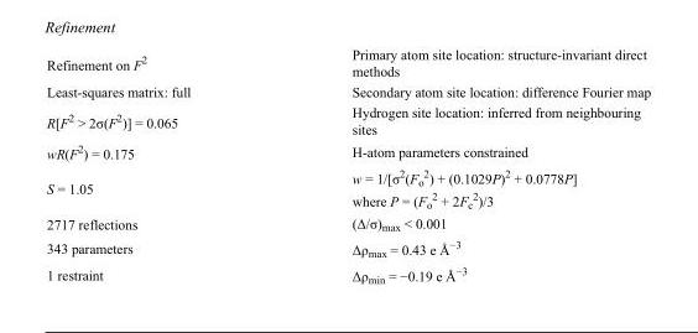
<table><tbody><tr><td>Refinement on F<sup>2</sup></td><td>Primary atom site location: structure-invariant direct methods</td></tr><tr><td>Least-squares matrix: full</td><td>Secondary atom site location: difference Fourier map</td></tr><tr><td>R[F<sup>2</sup> &gt; 2σ(F<sup>2</sup>)] = 0.065</td><td>Hydrogen site location: inferred from neighbouring sites</td></tr><tr><td>wR(F<sup>2</sup>) = 0.175</td><td>H-atom parameters constrained</td></tr><tr><td>S = 1.05</td><td>w = 1/[σ<sup>2</sup>(F<sub>o</sub> <sup>2</sup>) + (0.1029P)<sup>2</sup> + 0.0778P] where P = (F<sub>o</sub> <sup>2</sup> + 2F<sub>c</sub> <sup>2</sup>)/3</td></tr><tr><td>2717 reflections</td><td>(Δ/σ)<sub>max</sub> &lt; 0.001</td></tr><tr><td>343 parameters</td><td>Δρ<sub>max</sub> = 0.43 e Å<sup>−3</sup></td></tr><tr><td>1 restraint</td><td>Δρ<sub>min</sub> = −0.19 e Å<sup>−3</sup></td></tr></tbody></table>